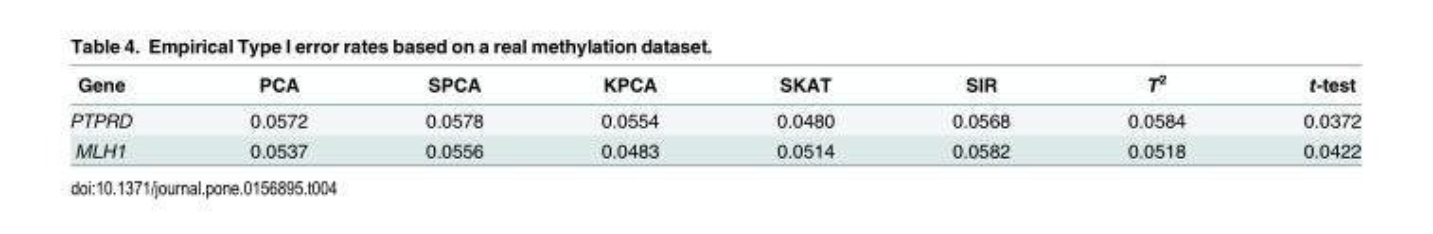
<table><thead><tr><td>Gene</td><td>PCA</td><td>SPCA</td><td>KPCA</td><td>SKAT</td><td>SIR</td><td>T<sup>2</sup></td><td>t-test</td></tr></thead><tbody><tr><td>PTPRD</td><td>0.0572</td><td>0.0578</td><td>0.0554</td><td>0.0480</td><td>0.0568</td><td>0.0584</td><td>0.0372</td></tr><tr><td>MLH1</td><td>0.0537</td><td>0.0556</td><td>0.0483</td><td>0.0514</td><td>0.0582</td><td>0.0518</td><td>0.0422</td></tr></tbody></table>